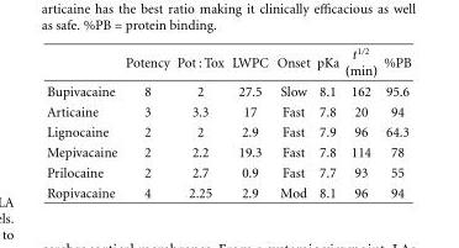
<table><thead><tr><td></td><td>Potency</td><td>Pot : Tox</td><td>LWPC</td><td>Onset</td><td>pKa</td><td>t<sup>1/2</sup> (min)</td><td>%PB</td></tr></thead><tbody><tr><td>Bupivacaine</td><td>8</td><td>2</td><td>27.5</td><td>Slow</td><td>8.1</td><td>162</td><td>95.6</td></tr><tr><td>Articaine</td><td>3</td><td>3.3</td><td>17</td><td>Fast</td><td>7.8</td><td>20</td><td>94</td></tr><tr><td>Lignocaine</td><td>2</td><td>2</td><td>2.9</td><td>Fast</td><td>7.9</td><td>96</td><td>64.3</td></tr><tr><td>Mepivacaine</td><td>2</td><td>2.2</td><td>19.3</td><td>Fast</td><td>7.8</td><td>114</td><td>78</td></tr><tr><td>Prilocaine</td><td>2</td><td>2.7</td><td>0.9</td><td>Fast</td><td>7.7</td><td>93</td><td>55</td></tr><tr><td>Ropivacaine</td><td>4</td><td>2.25</td><td>2.9</td><td>Mod</td><td>8.1</td><td>96</td><td>94</td></tr></tbody></table>